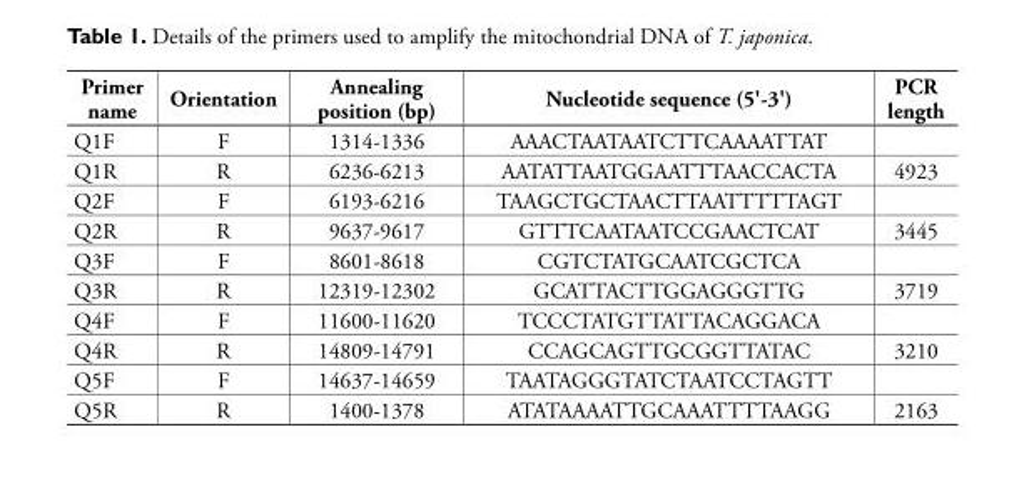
<table><thead><tr><td>Primer name</td><td>Orientation</td><td>Annealing position (bp)</td><td>Nucleotide sequence (5&#x27;-3&#x27;)</td><td>PCR length</td></tr></thead><tbody><tr><td>Q1F</td><td>F</td><td>1314-1336</td><td>AAACTAATAATCTTCAAAATTAT</td><td></td></tr><tr><td>Q1R</td><td>R</td><td>6236-6213</td><td>AATATTAATGGAATTTAACCACTA</td><td>4923</td></tr><tr><td>Q2F</td><td>F</td><td>6193-6216</td><td>TAAGCTGCTAACTTAATTTTTAGT</td><td></td></tr><tr><td>Q2R</td><td>R</td><td>9637-9617</td><td>GTTTCAATAATCCGAACTCAT</td><td>3445</td></tr><tr><td>Q3F</td><td>F</td><td>8601-8618</td><td>CGTCTATGCAATCGCTCA</td><td></td></tr><tr><td>Q3R</td><td>R</td><td>12319-12302</td><td>GCATTACTTGGAGGGTTG</td><td>3719</td></tr><tr><td>Q4F</td><td>F</td><td>11600-11620</td><td>TCCCTATGTTATTACAGGACA</td><td></td></tr><tr><td>Q4R</td><td>R</td><td>14809-14791</td><td>CCAGCAGTTGCGGTTATAC</td><td>3210</td></tr><tr><td>Q5F</td><td>F</td><td>14637-14659</td><td>TAATAGGGTATCTAATCCTAGTT</td><td></td></tr><tr><td>Q5R</td><td>R</td><td>1400-1378</td><td>ATATAAAATTGCAAATTTTAAGG</td><td>2163</td></tr></tbody></table>